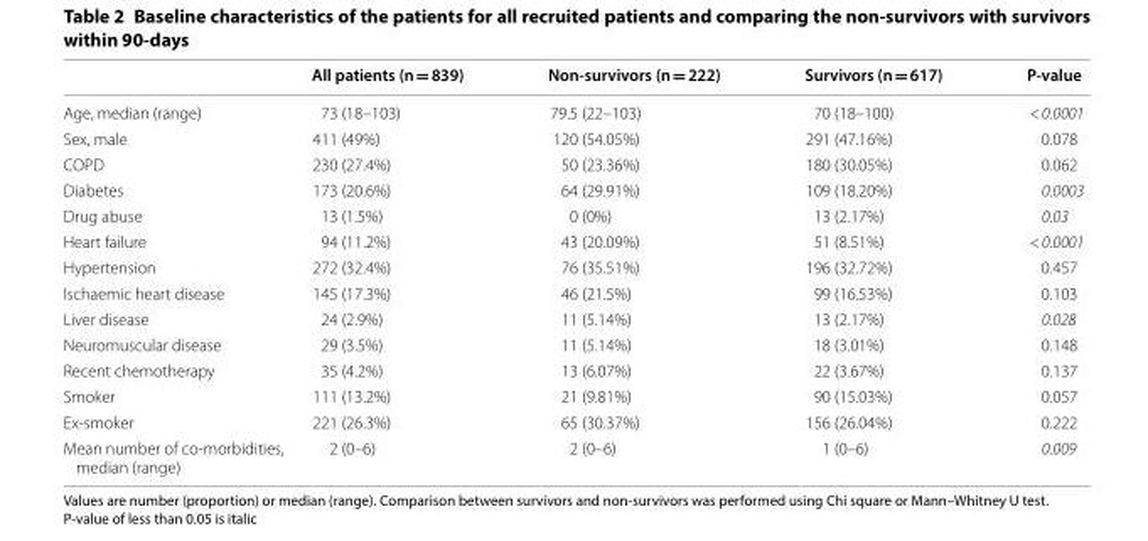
<table><thead><tr><td></td><td>All patients (n = 839)</td><td>Non-survivors (n = 222)</td><td>Survivors (n = 617)</td><td>P-value</td></tr></thead><tbody><tr><td>Age, median (range)</td><td>73 (18–103)</td><td>79.5 (22–103)</td><td>70 (18–100)</td><td>&lt; 0.0001</td></tr><tr><td>Sex, male</td><td>411 (49%)</td><td>120 (54.05%)</td><td>291 (47.16%)</td><td>0.078</td></tr><tr><td>COPD</td><td>230 (27.4%)</td><td>50 (23.36%)</td><td>180 (30.05%)</td><td>0.062</td></tr><tr><td>Diabetes</td><td>173 (20.6%)</td><td>64 (29.91%)</td><td>109 (18.20%)</td><td>0.0003</td></tr><tr><td>Drug abuse</td><td>13 (1.5%)</td><td>0 (0%)</td><td>13 (2.17%)</td><td>0.03</td></tr><tr><td>Heart failure</td><td>94 (11.2%)</td><td>43 (20.09%)</td><td>51 (8.51%)</td><td>&lt; 0.0001</td></tr><tr><td>Hypertension</td><td>272 (32.4%)</td><td>76 (35.51%)</td><td>196 (32.72%)</td><td>0.457</td></tr><tr><td>Ischaemic heart disease</td><td>145 (17.3%)</td><td>46 (21.5%)</td><td>99 (16.53%)</td><td>0.103</td></tr><tr><td>Liver disease</td><td>24 (2.9%)</td><td>11 (5.14%)</td><td>13 (2.17%)</td><td>0.028</td></tr><tr><td>Neuromuscular disease</td><td>29 (3.5%)</td><td>11 (5.14%)</td><td>18 (3.01%)</td><td>0.148</td></tr><tr><td>Recent chemotherapy</td><td>35 (4.2%)</td><td>13 (6.07%)</td><td>22 (3.67%)</td><td>0.137</td></tr><tr><td>Smoker</td><td>111 (13.2%)</td><td>21 (9.81%)</td><td>90 (15.03%)</td><td>0.057</td></tr><tr><td>Ex‑smoker</td><td>221 (26.3%)</td><td>65 (30.37%)</td><td>156 (26.04%)</td><td>0.222</td></tr><tr><td>Mean number of co‑morbidities, median (range)</td><td>2 (0–6)</td><td>2 (0–6)</td><td>1 (0–6)</td><td>0.009</td></tr></tbody></table>